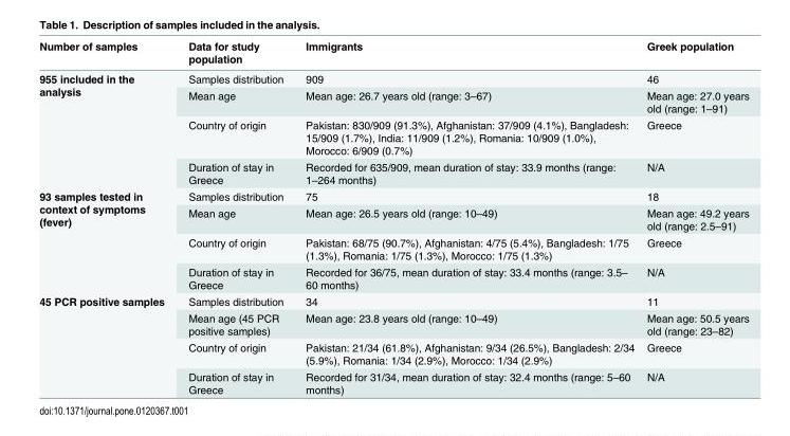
<table><thead><tr><td>Number of samples</td><td>Data for study population</td><td>Immigrants</td><td>Greek population</td></tr></thead><tbody><tr><td rowspan="4">955 included in the analysis</td><td>Samples distribution</td><td>909</td><td>46</td></tr><tr><td>Mean age</td><td>Mean age: 26.7 years old (range: 3–67)</td><td>Mean age: 27.0 years old (range: 1–91)</td></tr><tr><td>Country of origin</td><td>Pakistan: 830/909 (91.3%), Afghanistan: 37/909 (4.1%), Bangladesh: 15/909 (1.7%), India: 11/909 (1.2%), Romania: 10/909 (1.0%), Morocco: 6/909 (0.7%)</td><td>Greece</td></tr><tr><td>Duration of stay in Greece</td><td>Recorded for 635/909, mean duration of stay: 33.9 months (range: 1–264 months)</td><td>N/A</td></tr><tr><td rowspan="4">93 samples tested in context of symptoms (fever)</td><td>Samples distribution</td><td>75</td><td>18</td></tr><tr><td>Mean age</td><td>Mean age: 26.5 years old (range: 10–49)</td><td>Mean age: 49.2 years old (range: 2.5–91)</td></tr><tr><td>Country of origin</td><td>Pakistan: 68/75 (90.7%), Afghanistan: 4/75 (5.4%), Bangladesh: 1/75 (1.3%), Romania: 1/75 (1.3%), Morocco: 1/75 (1.3%)</td><td>Greece</td></tr><tr><td>Duration of stay in Greece</td><td>Recorded for 36/75, mean duration of stay: 33.4 months (range: 3.5– 60 months)</td><td>N/A</td></tr><tr><td rowspan="4">45 PCR positive samples</td><td>Samples distribution</td><td>34</td><td>11</td></tr><tr><td>Mean age (45 PCR positive samples)</td><td>Mean age: 23.8 years old (range: 10–49)</td><td>Mean age: 50.5 years old (range: 23–82)</td></tr><tr><td>Country of origin</td><td>Pakistan: 21/34 (61.8%), Afghanistan: 9/34 (26.5%), Bangladesh: 2/34 (5.9%), Romania: 1/34 (2.9%), Morocco: 1/34 (2.9%)</td><td>Greece</td></tr><tr><td>Duration of stay in Greece</td><td>Recorded for 31/34, mean duration of stay: 32.4 months (range: 5–60 months)</td><td>N/A</td></tr></tbody></table>